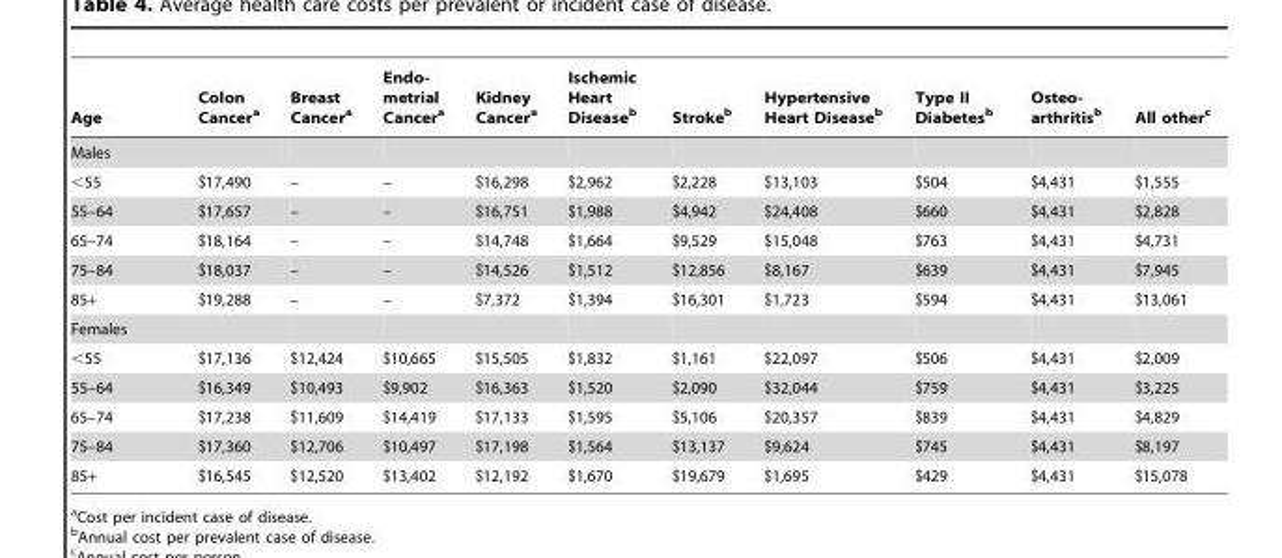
<table><thead><tr><td>Age</td><td>Colon Cancer<sup>a</sup></td><td>Breast Cancer<sup>a</sup></td><td>Endo- metrial Cancer<sup>a</sup></td><td>Kidney Cancer<sup>a</sup></td><td>Ischemic Heart Disease<sup>b</sup></td><td>Stroke<sup>b</sup></td><td>Hypertensive Heart Disease<sup>b</sup></td><td>Type II Diabetes<sup>b</sup></td><td>Osteo- arthritis<sup>b</sup></td><td>All other<sup>c</sup></td></tr></thead><tbody><tr><td colspan="11">Males</td></tr><tr><td>&lt;55</td><td>$17,490</td><td>–</td><td>–</td><td>$16,298</td><td>$2,962</td><td>$2,228</td><td>$13,103</td><td>$504</td><td>$4,431</td><td>$1,555</td></tr><tr><td>55–64</td><td>$17,657</td><td>–</td><td>–</td><td>$16,751</td><td>$1,988</td><td>$4,942</td><td>$24,408</td><td>$660</td><td>$4,431</td><td>$2,828</td></tr><tr><td>65–74</td><td>$18,164</td><td>–</td><td>–</td><td>$14,748</td><td>$1,664</td><td>$9,529</td><td>$15,048</td><td>$763</td><td>$4,431</td><td>$4,731</td></tr><tr><td>75–84</td><td>$18,037</td><td>–</td><td>–</td><td>$14,526</td><td>$1,512</td><td>$12,856</td><td>$8,167</td><td>$639</td><td>$4,431</td><td>$7,945</td></tr><tr><td>85+</td><td>$19,288</td><td>–</td><td>–</td><td>$7,372</td><td>$1,394</td><td>$16,301</td><td>$1,723</td><td>$594</td><td>$4,431</td><td>$13,061</td></tr><tr><td colspan="11">Females</td></tr><tr><td>&lt;55</td><td>$17,136</td><td>$12,424</td><td>$10,665</td><td>$15,505</td><td>$1,832</td><td>$1,161</td><td>$22,097</td><td>$506</td><td>$4,431</td><td>$2,009</td></tr><tr><td>55–64</td><td>$16,349</td><td>$10,493</td><td>$9,902</td><td>$16,363</td><td>$1,520</td><td>$2,090</td><td>$32,044</td><td>$759</td><td>$4,431</td><td>$3,225</td></tr><tr><td>65–74</td><td>$17,238</td><td>$11,609</td><td>$14,419</td><td>$17,133</td><td>$1,595</td><td>$5,106</td><td>$20,357</td><td>$839</td><td>$4,431</td><td>$4,829</td></tr><tr><td>75–84</td><td>$17,360</td><td>$12,706</td><td>$10,497</td><td>$17,198</td><td>$1,564</td><td>$13,137</td><td>$9,624</td><td>$745</td><td>$4,431</td><td>$8,197</td></tr><tr><td>85+</td><td>$16,545</td><td>$12,520</td><td>$13,402</td><td>$12,192</td><td>$1,670</td><td>$19,679</td><td>$1,695</td><td>$429</td><td>$4,431</td><td>$15,078</td></tr></tbody></table>